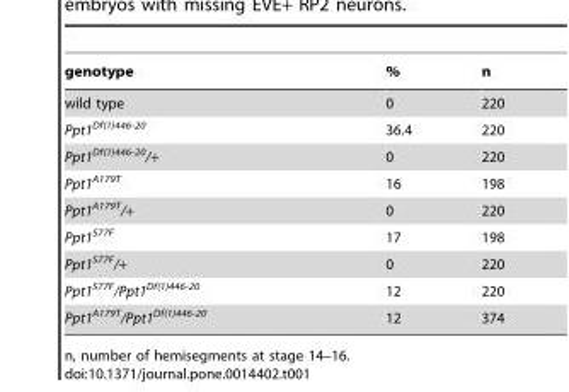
<table><thead><tr><td>genotype</td><td>%</td><td>n</td></tr></thead><tbody><tr><td>wild type</td><td>0</td><td>220</td></tr><tr><td>Ppt1<sup>Df(1)446-20</sup></td><td>36.4</td><td>220</td></tr><tr><td>Ppt1<sup>Df(1)446-20</sup>/+</td><td>0</td><td>220</td></tr><tr><td>Ppt1<sup>A179T</sup></td><td>16</td><td>198</td></tr><tr><td>Ppt1<sup>A179T</sup>/+</td><td>0</td><td>220</td></tr><tr><td>Ppt1<sup>S77F</sup></td><td>17</td><td>198</td></tr><tr><td>Ppt1<sup>S77F</sup>/+</td><td>0</td><td>220</td></tr><tr><td>Ppt1<sup>S77F</sup>/Ppt1<sup>Df(1)446-20</sup></td><td>12</td><td>220</td></tr><tr><td>Ppt1<sup>A179T</sup>/Ppt1<sup>Df(1)446-20</sup></td><td>12</td><td>374</td></tr></tbody></table>